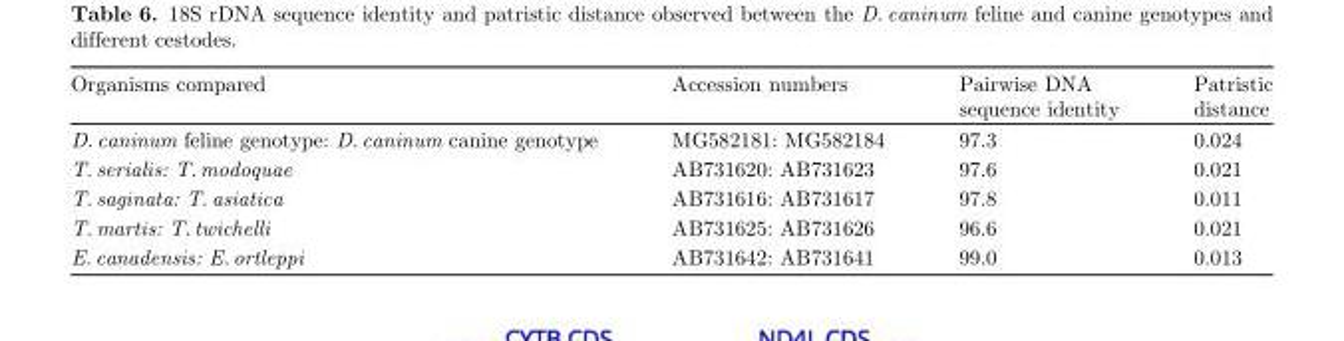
<table><thead><tr><td>Organisms compared</td><td>Accession numbers</td><td>Pairwise DNA sequence identity</td><td>Patristic distance</td></tr></thead><tbody><tr><td>D. caninum feline genotype: D. caninum canine genotype</td><td>MG582181: MG582184</td><td>97.3</td><td>0.024</td></tr><tr><td>T. serialis: T. modoquae</td><td>AB731620: AB731623</td><td>97.6</td><td>0.021</td></tr><tr><td>T. saginata: T. asiatica</td><td>AB731616: AB731617</td><td>97.8</td><td>0.011</td></tr><tr><td>T. martis: T. twichelli</td><td>AB731625: AB731626</td><td>96.6</td><td>0.021</td></tr><tr><td>E. canadensis: E. ortleppi</td><td>AB731642: AB731641</td><td>99.0</td><td>0.013</td></tr></tbody></table>